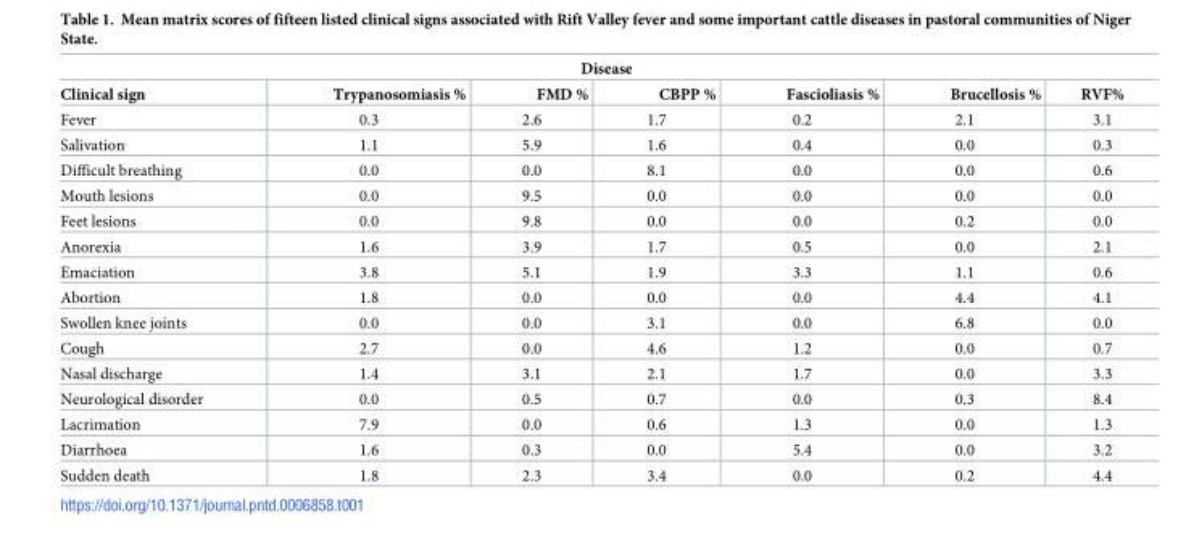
<table><thead><tr><td colspan="7">Disease</td></tr><tr><td>Clinical sign</td><td>Trypanosomiasis %</td><td>FMD %</td><td>CBPP %</td><td>Fascioliasis %</td><td>Brucellosis %</td><td>RVF%</td></tr></thead><tbody><tr><td>Fever</td><td>0.3</td><td>2.6</td><td>1.7</td><td>0.2</td><td>2.1</td><td>3.1</td></tr><tr><td>Salivation</td><td>1.1</td><td>5.9</td><td>1.6</td><td>0.4</td><td>0.0</td><td>0.3</td></tr><tr><td>Difficult breathing</td><td>0.0</td><td>0.0</td><td>8.1</td><td>0.0</td><td>0.0</td><td>0.6</td></tr><tr><td>Mouth lesions</td><td>0.0</td><td>9.5</td><td>0.0</td><td>0.0</td><td>0.0</td><td>0.0</td></tr><tr><td>Feet lesions</td><td>0.0</td><td>9.8</td><td>0.0</td><td>0.0</td><td>0.2</td><td>0.0</td></tr><tr><td>Anorexia</td><td>1.6</td><td>3.9</td><td>1.7</td><td>0.5</td><td>0.0</td><td>2.1</td></tr><tr><td>Emaciation</td><td>3.8</td><td>5.1</td><td>1.9</td><td>3.3</td><td>1.1</td><td>0.6</td></tr><tr><td>Abortion</td><td>1.8</td><td>0.0</td><td>0.0</td><td>0.0</td><td>4.4</td><td>4.1</td></tr><tr><td>Swollen knee joints</td><td>0.0</td><td>0.0</td><td>3.1</td><td>0.0</td><td>6.8</td><td>0.0</td></tr><tr><td>Cough</td><td>2.7</td><td>0.0</td><td>4.6</td><td>1.2</td><td>0.0</td><td>0.7</td></tr><tr><td>Nasal discharge</td><td>1.4</td><td>3.1</td><td>2.1</td><td>1.7</td><td>0.0</td><td>3.3</td></tr><tr><td>Neurological disorder</td><td>0.0</td><td>0.5</td><td>0.7</td><td>0.0</td><td>0.3</td><td>8.4</td></tr><tr><td>Lacrimation</td><td>7.9</td><td>0.0</td><td>0.6</td><td>1.3</td><td>0.0</td><td>1.3</td></tr><tr><td>Diarrhoea</td><td>1.6</td><td>0.3</td><td>0.0</td><td>5.4</td><td>0.0</td><td>3.2</td></tr><tr><td>Sudden death</td><td>1.8</td><td>2.3</td><td>3.4</td><td>0.0</td><td>0.2</td><td>4.4</td></tr></tbody></table>